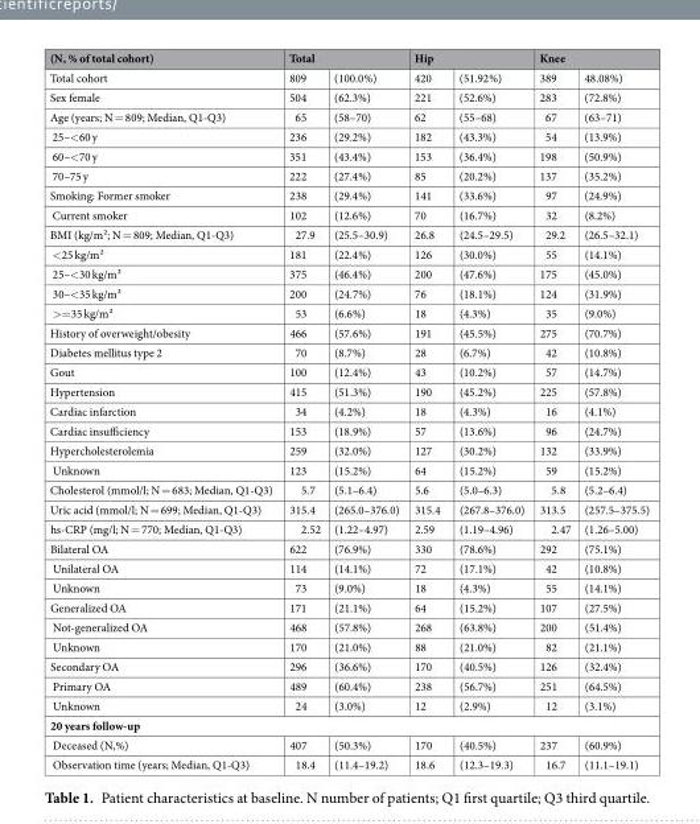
<table><thead><tr><td rowspan="2">(N, % of total cohort) Total cohort</td><td colspan="2">Total</td><td colspan="2">Hip</td><td colspan="2">Knee</td></tr><tr><td>809</td><td>(100.0%)</td><td>420</td><td>(51.92%)</td><td>389</td><td>48.08%)</td></tr></thead><tbody><tr><td>Sex female</td><td>504</td><td>(62.3%)</td><td>221</td><td>(52.6%)</td><td>283</td><td>(72.8%)</td></tr><tr><td>Age (years; N = 809; Median, Q1-Q3)</td><td>65</td><td>(58–70)</td><td>62</td><td>(55–68)</td><td>67</td><td>(63–71)</td></tr><tr><td>25–&lt;60 y</td><td>236</td><td>(29.2%)</td><td>182</td><td>(43.3%)</td><td>54</td><td>(13.9%)</td></tr><tr><td>60–&lt;70 y</td><td>351</td><td>(43.4%)</td><td>153</td><td>(36.4%)</td><td>198</td><td>(50.9%)</td></tr><tr><td>70–75 y</td><td>222</td><td>(27.4%)</td><td>85</td><td>(20.2%)</td><td>137</td><td>(35.2%)</td></tr><tr><td>Smoking: Former smoker</td><td>238</td><td>(29.4%)</td><td>141</td><td>(33.6%)</td><td>97</td><td>(24.9%)</td></tr><tr><td>Current smoker</td><td>102</td><td>(12.6%)</td><td>70</td><td>(16.7%)</td><td>32</td><td>(8.2%)</td></tr><tr><td>BMI (kg/m²; N = 809; Median, Q1-Q3)</td><td>27.9</td><td>(25.5–30.9)</td><td>26.8</td><td>(24.5–29.5)</td><td>29.2</td><td>(26.5–32.1)</td></tr><tr><td>&lt;25 kg/m²</td><td>181</td><td>(22.4%)</td><td>126</td><td>(30.0%)</td><td>55</td><td>(14.1%)</td></tr><tr><td>25–&lt;30 kg/m²</td><td>375</td><td>(46.4%)</td><td>200</td><td>(47.6%)</td><td>175</td><td>(45.0%)</td></tr><tr><td>30–&lt;35 kg/m²</td><td>200</td><td>(24.7%)</td><td>76</td><td>(18.1%)</td><td>124</td><td>(31.9%)</td></tr><tr><td>&gt;=35 kg/m²</td><td>53</td><td>(6.6%)</td><td>18</td><td>(4.3%)</td><td>35</td><td>(9.0%)</td></tr><tr><td>History of overweight/obesity</td><td>466</td><td>(57.6%)</td><td>191</td><td>(45.5%)</td><td>275</td><td>(70.7%)</td></tr><tr><td>Diabetes mellitus type 2</td><td>70</td><td>(8.7%)</td><td>28</td><td>(6.7%)</td><td>42</td><td>(10.8%)</td></tr><tr><td>Gout</td><td>100</td><td>(12.4%)</td><td>43</td><td>(10.2%)</td><td>57</td><td>(14.7%)</td></tr><tr><td>Hypertension</td><td>415</td><td>(51.3%)</td><td>190</td><td>(45.2%)</td><td>225</td><td>(57.8%)</td></tr><tr><td>Cardiac infarction</td><td>34</td><td>(4.2%)</td><td>18</td><td>(4.3%)</td><td>16</td><td>(4.1%)</td></tr><tr><td>Cardiac insufficiency</td><td>153</td><td>(18.9%)</td><td>57</td><td>(13.6%)</td><td>96</td><td>(24.7%)</td></tr><tr><td>Hypercholesterolemia</td><td>259</td><td>(32.0%)</td><td>127</td><td>(30.2%)</td><td>132</td><td>(33.9%)</td></tr><tr><td>Unknown</td><td>123</td><td>(15.2%)</td><td>64</td><td>(15.2%)</td><td>59</td><td>(15.2%)</td></tr><tr><td>Cholesterol (mmol/l; N = 683; Median, Q1-Q3)</td><td>5.7</td><td>(5.1–6.4)</td><td>5.6</td><td>(5.0–6.3)</td><td>5.8</td><td>(5.2–6.4)</td></tr><tr><td>Uric acid (mmol/l; N = 699; Median, Q1-Q3)</td><td>315.4</td><td>(265.0–376.0)</td><td>315.4</td><td>(267.8–376.0)</td><td>313.5</td><td>(257.5–375.5)</td></tr><tr><td>hs-CRP (mg/l; N = 770; Median, Q1-Q3)</td><td>2.52</td><td>(1.22–4.97)</td><td>2.59</td><td>(1.19–4.96)</td><td>2.47</td><td>(1.26–5.00)</td></tr><tr><td>Bilateral OA</td><td>622</td><td>(76.9%)</td><td>330</td><td>(78.6%)</td><td>292</td><td>(75.1%)</td></tr><tr><td>Unilateral OA</td><td>114</td><td>(14.1%)</td><td>72</td><td>(17.1%)</td><td>42</td><td>(10.8%)</td></tr><tr><td>Unknown</td><td>73</td><td>(9.0%)</td><td>18</td><td>(4.3%)</td><td>55</td><td>(14.1%)</td></tr><tr><td>Generalized OA</td><td>171</td><td>(21.1%)</td><td>64</td><td>(15.2%)</td><td>107</td><td>(27.5%)</td></tr><tr><td>Not-generalized OA</td><td>468</td><td>(57.8%)</td><td>268</td><td>(63.8%)</td><td>200</td><td>(51.4%)</td></tr><tr><td>Unknown</td><td>170</td><td>(21.0%)</td><td>88</td><td>(21.0%)</td><td>82</td><td>(21.1%)</td></tr><tr><td>Secondary OA</td><td>296</td><td>(36.6%)</td><td>170</td><td>(40.5%)</td><td>126</td><td>(32.4%)</td></tr><tr><td>Primary OA</td><td>489</td><td>(60.4%)</td><td>238</td><td>(56.7%)</td><td>251</td><td>(64.5%)</td></tr><tr><td>Unknown</td><td>24</td><td>(3.0%)</td><td>12</td><td>(2.9%)</td><td>12</td><td>(3.1%)</td></tr><tr><td colspan="7">20 years follow-up</td></tr><tr><td>Deceased (N,%)</td><td>407</td><td>(50.3%)</td><td>170</td><td>(40.5%)</td><td>237</td><td>(60.9%)</td></tr><tr><td>Observation time (years; Median, Q1-Q3)</td><td>18.4</td><td>(11.4–19.2)</td><td>18.6</td><td>(12.3–19.3)</td><td>16.7</td><td>(11.1–19.1)</td></tr></tbody></table>